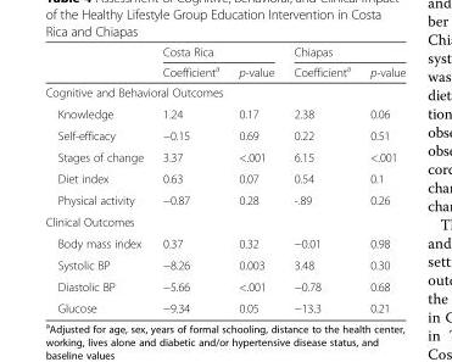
<table><thead><tr><td rowspan="2"></td><td colspan="2">Costa Rica</td><td colspan="2">Chiapas</td></tr><tr><td>Coefficient<sup>a</sup></td><td>p-value</td><td>Coefficient<sup>a</sup></td><td>p-value</td></tr></thead><tbody><tr><td colspan="5">Cognitive and Behavioral Outcomes</td></tr><tr><td>Knowledge</td><td>1.24</td><td>0.17</td><td>2.38</td><td>0.06</td></tr><tr><td>Self-efficacy</td><td>−0.15</td><td>0.69</td><td>0.22</td><td>0.51</td></tr><tr><td>Stages of change</td><td>3.37</td><td>&lt;.001</td><td>6.15</td><td>&lt;.001</td></tr><tr><td>Diet index</td><td>0.63</td><td>0.07</td><td>0.54</td><td>0.1</td></tr><tr><td>Physical activity</td><td>−0.87</td><td>0.28</td><td>-.89</td><td>0.26</td></tr><tr><td colspan="5">Clinical Outcomes</td></tr><tr><td>Body mass index</td><td>0.37</td><td>0.32</td><td>−0.01</td><td>0.98</td></tr><tr><td>Systolic BP</td><td>−8.26</td><td>0.003</td><td>3.48</td><td>0.30</td></tr><tr><td>Diastolic BP</td><td>−5.66</td><td>&lt;.001</td><td>−0.78</td><td>0.68</td></tr><tr><td>Glucose</td><td>−9.34</td><td>0.05</td><td>−13.3</td><td>0.21</td></tr></tbody></table>